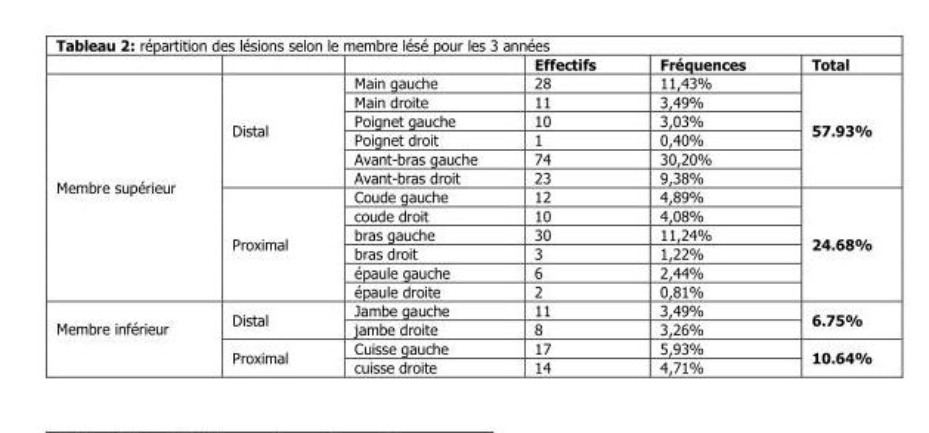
<table><thead><tr><td></td><td></td><td></td><td>Effectifs</td><td>Fréquences</td><td>Total</td></tr></thead><tbody><tr><td rowspan="12">Membre supérieur</td><td rowspan="6">Distal</td><td>Main gauche</td><td>28</td><td>11,43%</td><td rowspan="6">57.93%</td></tr><tr><td>Main droite</td><td>11</td><td>3,49%</td></tr><tr><td>Poignet gauche</td><td>10</td><td>3,03%</td></tr><tr><td>Poignet droit</td><td>1</td><td>0,40%</td></tr><tr><td>Avant-bras gauche</td><td>74</td><td>30,20%</td></tr><tr><td>Avant-bras droit</td><td>23</td><td>9,38%</td></tr><tr><td rowspan="6">Proximal</td><td>Coude gauche</td><td>12</td><td>4,89%</td><td rowspan="6">24.68%</td></tr><tr><td>coude droit</td><td>10</td><td>4,08%</td></tr><tr><td>bras gauche</td><td>30</td><td>11,24%</td></tr><tr><td>bras droit</td><td>3</td><td>1,22%</td></tr><tr><td>épaule gauche</td><td>6</td><td>2,44%</td></tr><tr><td>épaule droite</td><td>2</td><td>0,81%</td></tr><tr><td rowspan="4">Membre inférieur</td><td rowspan="2">Distal</td><td>Jambe gauche</td><td>11</td><td>3,49%</td><td rowspan="2">6.75%</td></tr><tr><td>jambe droite</td><td>8</td><td>3,26%</td></tr><tr><td rowspan="2">Proximal</td><td>Cuisse gauche</td><td>17</td><td>5,93%</td><td rowspan="2">10.64%</td></tr><tr><td>cuisse droite</td><td>14</td><td>4,71%</td></tr></tbody></table>